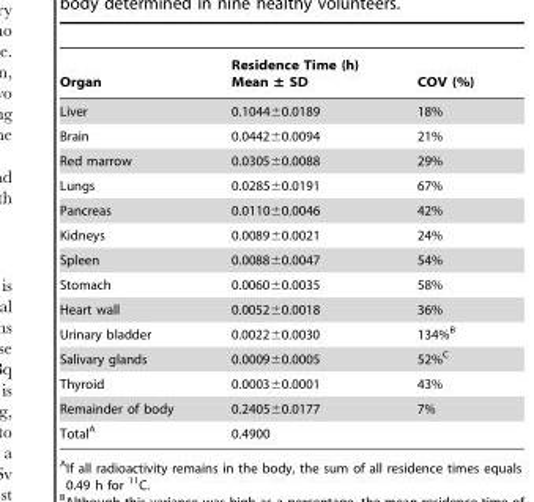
<table><thead><tr><td>Organ</td><td>Residence Time (h) Mean ± SD</td><td>COV (%)</td></tr></thead><tbody><tr><td>Liver</td><td>0.1044±0.0189</td><td>18%</td></tr><tr><td>Brain</td><td>0.0442±0.0094</td><td>21%</td></tr><tr><td>Red marrow</td><td>0.0305±0.0088</td><td>29%</td></tr><tr><td>Lungs</td><td>0.0285±0.0191</td><td>67%</td></tr><tr><td>Pancreas</td><td>0.0110±0.0046</td><td>42%</td></tr><tr><td>Kidneys</td><td>0.0089±0.0021</td><td>24%</td></tr><tr><td>Spleen</td><td>0.0088±0.0047</td><td>54%</td></tr><tr><td>Stomach</td><td>0.0060±0.0035</td><td>58%</td></tr><tr><td>Heart wall</td><td>0.0052±0.0018</td><td>36%</td></tr><tr><td>Urinary bladder</td><td>0.0022±0.0030</td><td>134%<sup>B</sup></td></tr><tr><td>Salivary glands</td><td>0.0009±0.0005</td><td>52%<sup>C</sup></td></tr><tr><td>Thyroid</td><td>0.0003±0.0001</td><td>43%</td></tr><tr><td>Remainder of body</td><td>0.2405±0.0177</td><td>7%</td></tr><tr><td>Total<sup>A</sup></td><td>0.4900</td><td></td></tr></tbody></table>